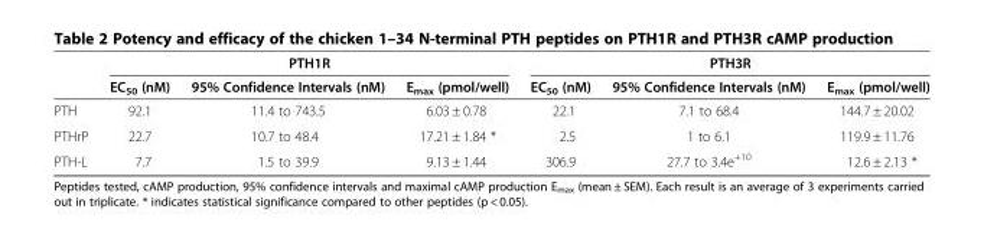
<table><thead><tr><td rowspan="2"></td><td colspan="3">PTH1R</td><td colspan="3">PTH3R</td></tr><tr><td>EC<sub>50</sub> (nM)</td><td>95% Confidence Intervals (nM)</td><td>E<sub>max</sub> (pmol/well)</td><td>EC<sub>50</sub> (nM)</td><td>95% Confidence Intervals (nM)</td><td>E<sub>max</sub> (pmol/well)</td></tr></thead><tbody><tr><td>PTH</td><td>92.1</td><td>11.4 to 743.5</td><td>6.03 ± 0.78</td><td>22.1</td><td>7.1 to 68.4</td><td>144.7 ± 20.02</td></tr><tr><td>PTHrP</td><td>22.7</td><td>10.7 to 48.4</td><td>17.21 ± 1.84 *</td><td>2.5</td><td>1 to 6.1</td><td>119.9 ± 11.76</td></tr><tr><td>PTH-L</td><td>7.7</td><td>1.5 to 39.9</td><td>9.13 ± 1.44</td><td>306.9</td><td>27.7 to 3.4e<sup>+10</sup></td><td>12.6 ± 2.13 *</td></tr></tbody></table>